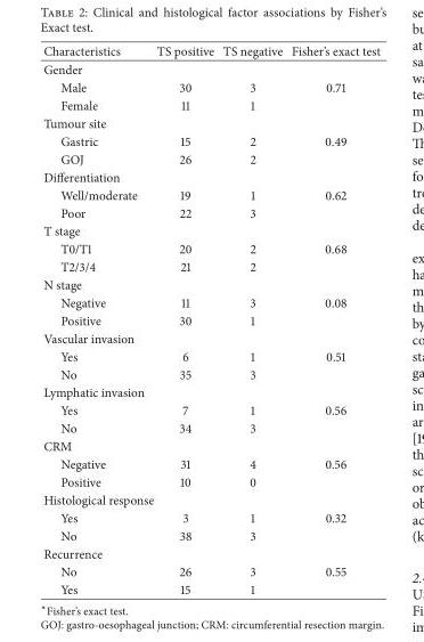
<table><thead><tr><td>Characteristics</td><td>TS positive</td><td>TS negative</td><td>Fisher’s exact test</td></tr></thead><tbody><tr><td colspan="4">Gender</td></tr><tr><td>Male</td><td>30</td><td>3</td><td>0.71</td></tr><tr><td>Female</td><td>11</td><td>1</td><td></td></tr><tr><td colspan="4">Tumour site</td></tr><tr><td>Gastric</td><td>15</td><td>2</td><td>0.49</td></tr><tr><td>GOJ</td><td>26</td><td>2</td><td></td></tr><tr><td colspan="4">Differentiation</td></tr><tr><td>Well/moderate</td><td>19</td><td>1</td><td>0.62</td></tr><tr><td>Poor</td><td>22</td><td>3</td><td></td></tr><tr><td colspan="4">T stage</td></tr><tr><td>T0/T1</td><td>20</td><td>2</td><td>0.68</td></tr><tr><td>T2/3/4</td><td>21</td><td>2</td><td></td></tr><tr><td colspan="4">N stage</td></tr><tr><td>Negative</td><td>11</td><td>3</td><td>0.08</td></tr><tr><td>Positive</td><td>30</td><td>1</td><td></td></tr><tr><td colspan="4">Vascular invasion</td></tr><tr><td>Yes</td><td>6</td><td>1</td><td>0.51</td></tr><tr><td>No</td><td>35</td><td>3</td><td></td></tr><tr><td colspan="4">Lymphatic invasion</td></tr><tr><td>Yes</td><td>7</td><td>1</td><td>0.56</td></tr><tr><td>No</td><td>34</td><td>3</td><td></td></tr><tr><td colspan="4">CRM</td></tr><tr><td>Negative</td><td>31</td><td>4</td><td>0.56</td></tr><tr><td>Positive</td><td>10</td><td>0</td><td></td></tr><tr><td colspan="4">Histological response</td></tr><tr><td>Yes</td><td>3</td><td>1</td><td>0.32</td></tr><tr><td>No</td><td>38</td><td>3</td><td></td></tr><tr><td colspan="4">Recurrence</td></tr><tr><td>No</td><td>26</td><td>3</td><td>0.55</td></tr><tr><td>Yes</td><td>15</td><td>1</td><td></td></tr></tbody></table>